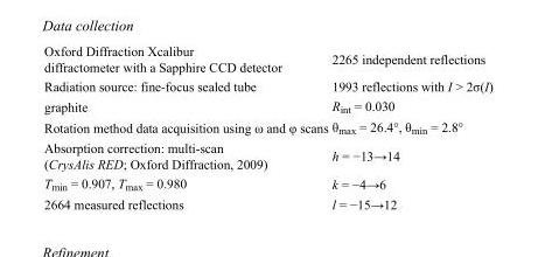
<table><tbody><tr><td>Oxford Diffraction Xcalibur diffractometer with a Sapphire CCD detector</td><td>2265 independent reflections</td></tr><tr><td>Radiation source: fine-focus sealed tube</td><td>1993 reflections with I &gt; 2σ(I)</td></tr><tr><td>graphite</td><td>R<sub>int</sub> = 0.030</td></tr><tr><td>Rotation method data acquisition using ω and φ scans</td><td>θ<sub>max</sub> = 26.4°, θ<sub>min</sub> = 2.8°</td></tr><tr><td>Absorption correction: multi-scan (CrysAlis RED; Oxford Diffraction, 2009)</td><td>h = −13→14</td></tr><tr><td>T<sub>min</sub> = 0.907, T<sub>max</sub> = 0.980</td><td>k = −4→6</td></tr><tr><td>2664 measured reflections</td><td>l = −15→12</td></tr></tbody></table>